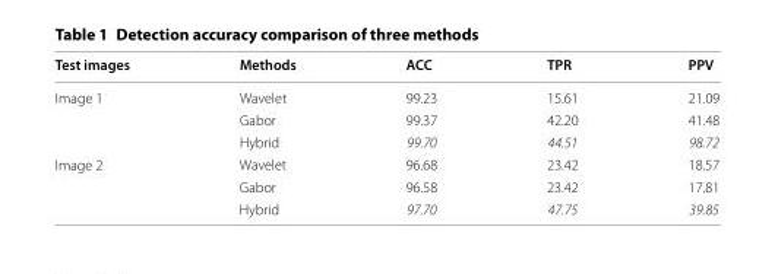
<table><thead><tr><td>Test images</td><td>Methods</td><td>ACC</td><td>TPR</td><td>PPV</td></tr></thead><tbody><tr><td rowspan="3">Image 1</td><td>Wavelet</td><td>99.23</td><td>15.61</td><td>21.09</td></tr><tr><td>Gabor</td><td>99.37</td><td>42.20</td><td>41.48</td></tr><tr><td>Hybrid</td><td>99.70</td><td>44.51</td><td>98.72</td></tr><tr><td rowspan="3">Image 2</td><td>Wavelet</td><td>96.68</td><td>23.42</td><td>18.57</td></tr><tr><td>Gabor</td><td>96.58</td><td>23.42</td><td>17.81</td></tr><tr><td>Hybrid</td><td>97.70</td><td>47.75</td><td>39.85</td></tr></tbody></table>